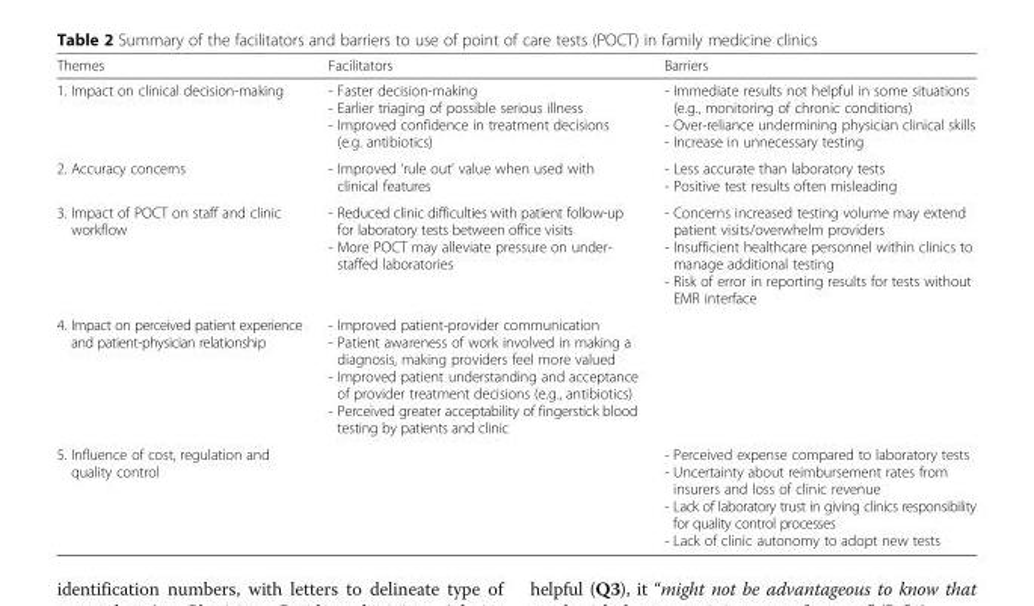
<table><thead><tr><td>Themes</td><td>Facilitators</td><td>Barriers</td></tr></thead><tbody><tr><td>1. Impact on clinical decision-making</td><td>- Faster decision-making - Earlier triaging of possible serious illness - Improved confidence in treatment decisions (e.g. antibiotics)</td><td>- Immediate results not helpful in some situations (e.g., monitoring of chronic conditions) - Over-reliance undermining physician clinical skills - Increase in unnecessary testing</td></tr><tr><td>2. Accuracy concerns</td><td>- Improved ‘rule out’ value when used with clinical features</td><td>- Less accurate than laboratory tests - Positive test results often misleading</td></tr><tr><td>3. Impact of POCT on staff and clinic workflow</td><td>- Reduced clinic difficulties with patient follow-up for laboratory tests between office visits - More POCT may alleviate pressure on under- staffed laboratories</td><td>- Concerns increased testing volume may extend patient visits/overwhelm providers - Insufficient healthcare personnel within clinics to manage additional testing - Risk of error in reporting results for tests without EMR interface</td></tr><tr><td>4. Impact on perceived patient experience and patient-physician relationship</td><td>- Improved patient-provider communication - Patient awareness of work involved in making a diagnosis, making providers feel more valued - Improved patient understanding and acceptance of provider treatment decisions (e.g., antibiotics) - Perceived greater acceptability of fingerstick blood testing by patients and clinic</td><td></td></tr><tr><td>5. Influence of cost, regulation and quality control</td><td></td><td>- Perceived expense compared to laboratory tests - Uncertainty about reimbursement rates from insurers and loss of clinic revenue - Lack of laboratory trust in giving clinics responsibility for quality control processes - Lack of clinic autonomy to adopt new tests</td></tr></tbody></table>